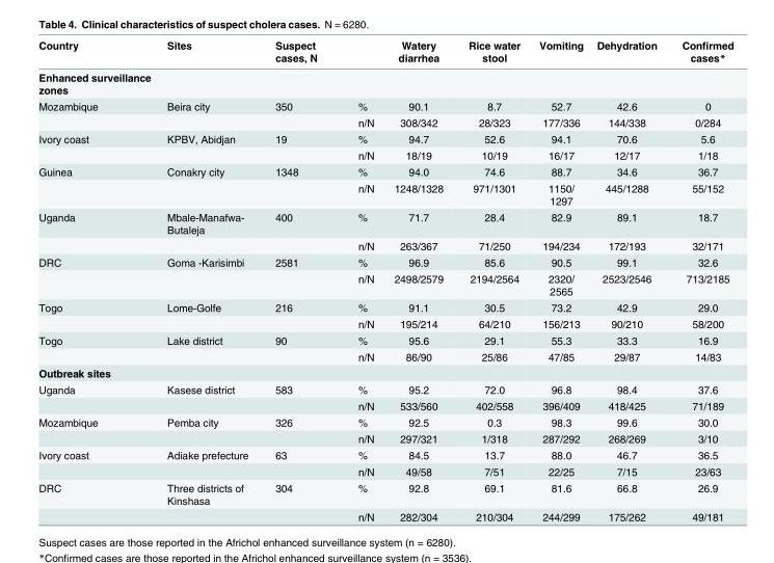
<table><thead><tr><td>Country</td><td>Sites</td><td>Suspect cases, N</td><td></td><td>Watery diarrhea</td><td>Rice water stool</td><td>Vomiting</td><td>Dehydration</td><td>Confirmed cases*</td></tr></thead><tbody><tr><td colspan="9">Enhanced surveillance zones</td></tr><tr><td rowspan="2">Mozambique</td><td>Beira city</td><td>350</td><td>%</td><td>90.1</td><td>8.7</td><td>52.7</td><td>42.6</td><td>0</td></tr><tr><td></td><td></td><td>n/N</td><td>308/342</td><td>28/323</td><td>177/336</td><td>144/338</td><td>0/284</td></tr><tr><td rowspan="2">Ivory coast</td><td>KPBV, Abidjan</td><td>19</td><td>%</td><td>94.7</td><td>52.6</td><td>94.1</td><td>70.6</td><td>5.6</td></tr><tr><td></td><td></td><td>n/N</td><td>18/19</td><td>10/19</td><td>16/17</td><td>12/17</td><td>1/18</td></tr><tr><td rowspan="2">Guinea</td><td>Conakry city</td><td>1348</td><td>%</td><td>94.0</td><td>74.6</td><td>88.7</td><td>34.6</td><td>36.7</td></tr><tr><td></td><td></td><td>n/N</td><td>1248/1328</td><td>971/1301</td><td>1150/ 1297</td><td>445/1288</td><td>55/152</td></tr><tr><td rowspan="2">Uganda</td><td>Mbale-Manafwa- Butaleja</td><td>400</td><td>%</td><td>71.7</td><td>28.4</td><td>82.9</td><td>89.1</td><td>18.7</td></tr><tr><td></td><td></td><td>n/N</td><td>263/367</td><td>71/250</td><td>194/234</td><td>172/193</td><td>32/171</td></tr><tr><td rowspan="2">DRC</td><td>Goma -Karisimbi</td><td>2581</td><td>%</td><td>96.9</td><td>85.6</td><td>90.5</td><td>99.1</td><td>32.6</td></tr><tr><td></td><td></td><td>n/N</td><td>2498/2579</td><td>2194/2564</td><td>2320/ 2565</td><td>2523/2546</td><td>713/2185</td></tr><tr><td rowspan="2">Togo</td><td>Lome-Golfe</td><td>216</td><td>%</td><td>91.1</td><td>30.5</td><td>73.2</td><td>42.9</td><td>29.0</td></tr><tr><td></td><td></td><td>n/N</td><td>195/214</td><td>64/210</td><td>156/213</td><td>90/210</td><td>58/200</td></tr><tr><td rowspan="2">Togo</td><td>Lake district</td><td>90</td><td>%</td><td>95.6</td><td>29.1</td><td>55.3</td><td>33.3</td><td>16.9</td></tr><tr><td></td><td></td><td>n/N</td><td>86/90</td><td>25/86</td><td>47/85</td><td>29/87</td><td>14/83</td></tr><tr><td colspan="9">Outbreak sites</td></tr><tr><td rowspan="2">Uganda</td><td>Kasese district</td><td>583</td><td>%</td><td>95.2</td><td>72.0</td><td>96.8</td><td>98.4</td><td>37.6</td></tr><tr><td></td><td></td><td>n/N</td><td>533/560</td><td>402/558</td><td>396/409</td><td>418/425</td><td>71/189</td></tr><tr><td rowspan="2">Mozambique</td><td>Pemba city</td><td>326</td><td>%</td><td>92.5</td><td>0.3</td><td>98.3</td><td>99.6</td><td>30.0</td></tr><tr><td></td><td></td><td>n/N</td><td>297/321</td><td>1/318</td><td>287/292</td><td>268/269</td><td>3/10</td></tr><tr><td rowspan="2">Ivory coast</td><td>Adiake prefecture</td><td>63</td><td>%</td><td>84.5</td><td>13.7</td><td>88.0</td><td>46.7</td><td>36.5</td></tr><tr><td></td><td></td><td>n/N</td><td>49/58</td><td>7/51</td><td>22/25</td><td>7/15</td><td>23/63</td></tr><tr><td rowspan="2">DRC</td><td>Three districts of Kinshasa</td><td>304</td><td>%</td><td>92.8</td><td>69.1</td><td>81.6</td><td>66.8</td><td>26.9</td></tr><tr><td></td><td></td><td>n/N</td><td>282/304</td><td>210/304</td><td>244/299</td><td>175/262</td><td>49/181</td></tr></tbody></table>